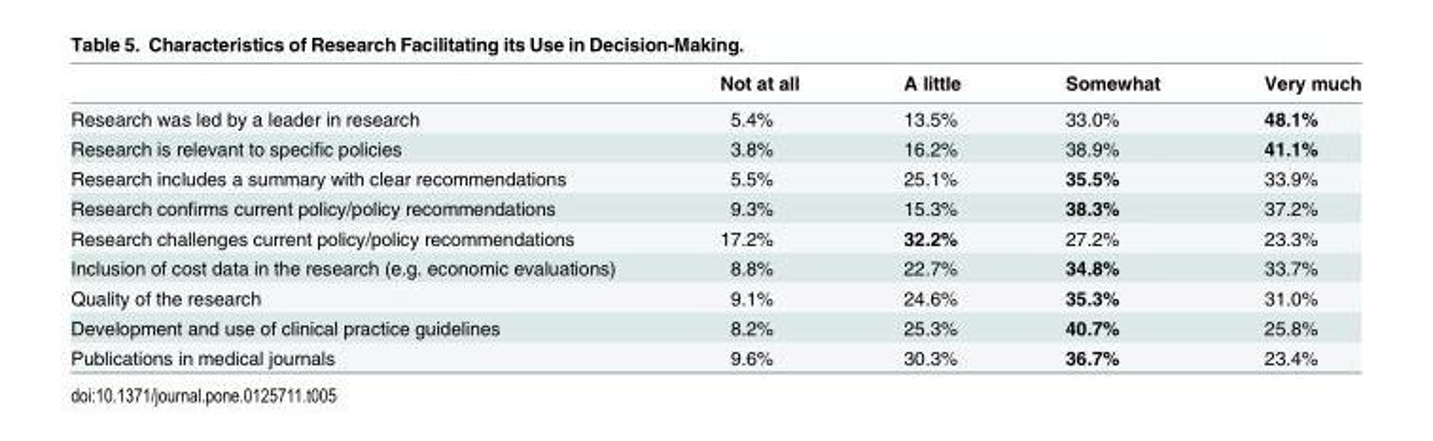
<table><thead><tr><td></td><td>Not at all</td><td>A little</td><td>Somewhat</td><td>Very much</td></tr></thead><tbody><tr><td>Research was led by a leader in research</td><td>5.4%</td><td>13.5%</td><td>33.0%</td><td>48.1%</td></tr><tr><td>Research is relevant to specific policies</td><td>3.8%</td><td>16.2%</td><td>38.9%</td><td>41.1%</td></tr><tr><td>Research includes a summary with clear recommendations</td><td>5.5%</td><td>25.1%</td><td>35.5%</td><td>33.9%</td></tr><tr><td>Research confirms current policy/policy recommendations</td><td>9.3%</td><td>15.3%</td><td>38.3%</td><td>37.2%</td></tr><tr><td>Research challenges current policy/policy recommendations</td><td>17.2%</td><td>32.2%</td><td>27.2%</td><td>23.3%</td></tr><tr><td>Inclusion of cost data in the research (e.g. economic evaluations)</td><td>8.8%</td><td>22.7%</td><td>34.8%</td><td>33.7%</td></tr><tr><td>Quality of the research</td><td>9.1%</td><td>24.6%</td><td>35.3%</td><td>31.0%</td></tr><tr><td>Development and use of clinical practice guidelines</td><td>8.2%</td><td>25.3%</td><td>40.7%</td><td>25.8%</td></tr><tr><td>Publications in medical journals</td><td>9.6%</td><td>30.3%</td><td>36.7%</td><td>23.4%</td></tr></tbody></table>